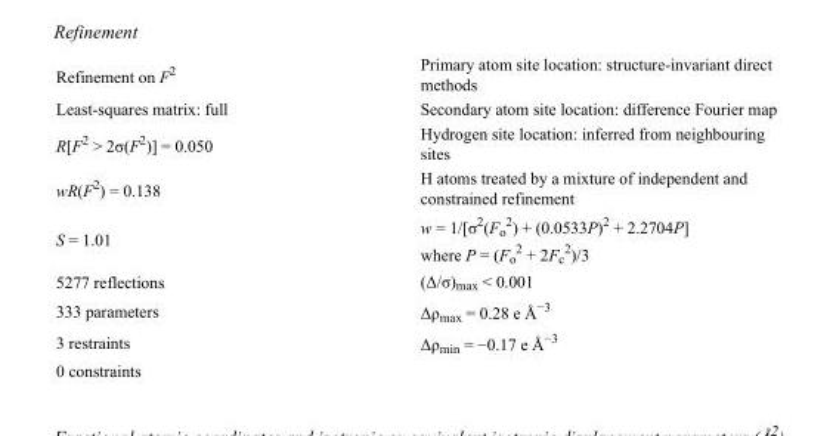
<table><tbody><tr><td>Refinement on F<sup>2</sup></td><td>Primary atom site location: structure-invariant direct methods</td></tr><tr><td>Least-squares matrix: full</td><td>Secondary atom site location: difference Fourier map</td></tr><tr><td>R[F<sup>2</sup> &gt; 2σ(F<sup>2</sup>)] = 0.050</td><td>Hydrogen site location: inferred from neighbouring sites</td></tr><tr><td>wR(F<sup>2</sup>) = 0.138</td><td>H atoms treated by a mixture of independent and constrained refinement</td></tr><tr><td>S = 1.01</td><td>w = 1/[σ<sup>2</sup>(F<sub>o</sub> <sup>2</sup>) + (0.0533P)<sup>2</sup> + 2.2704P] where P = (F<sub>o</sub> <sup>2</sup> + 2F<sub>c</sub> <sup>2</sup>)/3</td></tr><tr><td>5277 reflections</td><td>(Δ/σ)<sub>max</sub> &lt; 0.001</td></tr><tr><td>333 parameters</td><td>Δρ<sub>max</sub> = 0.28 e Å<sup>−3</sup></td></tr><tr><td>3 restraints</td><td>Δρ<sub>min</sub> = −0.17 e Å<sup>−3</sup></td></tr><tr><td>0 constraints</td><td></td></tr></tbody></table>